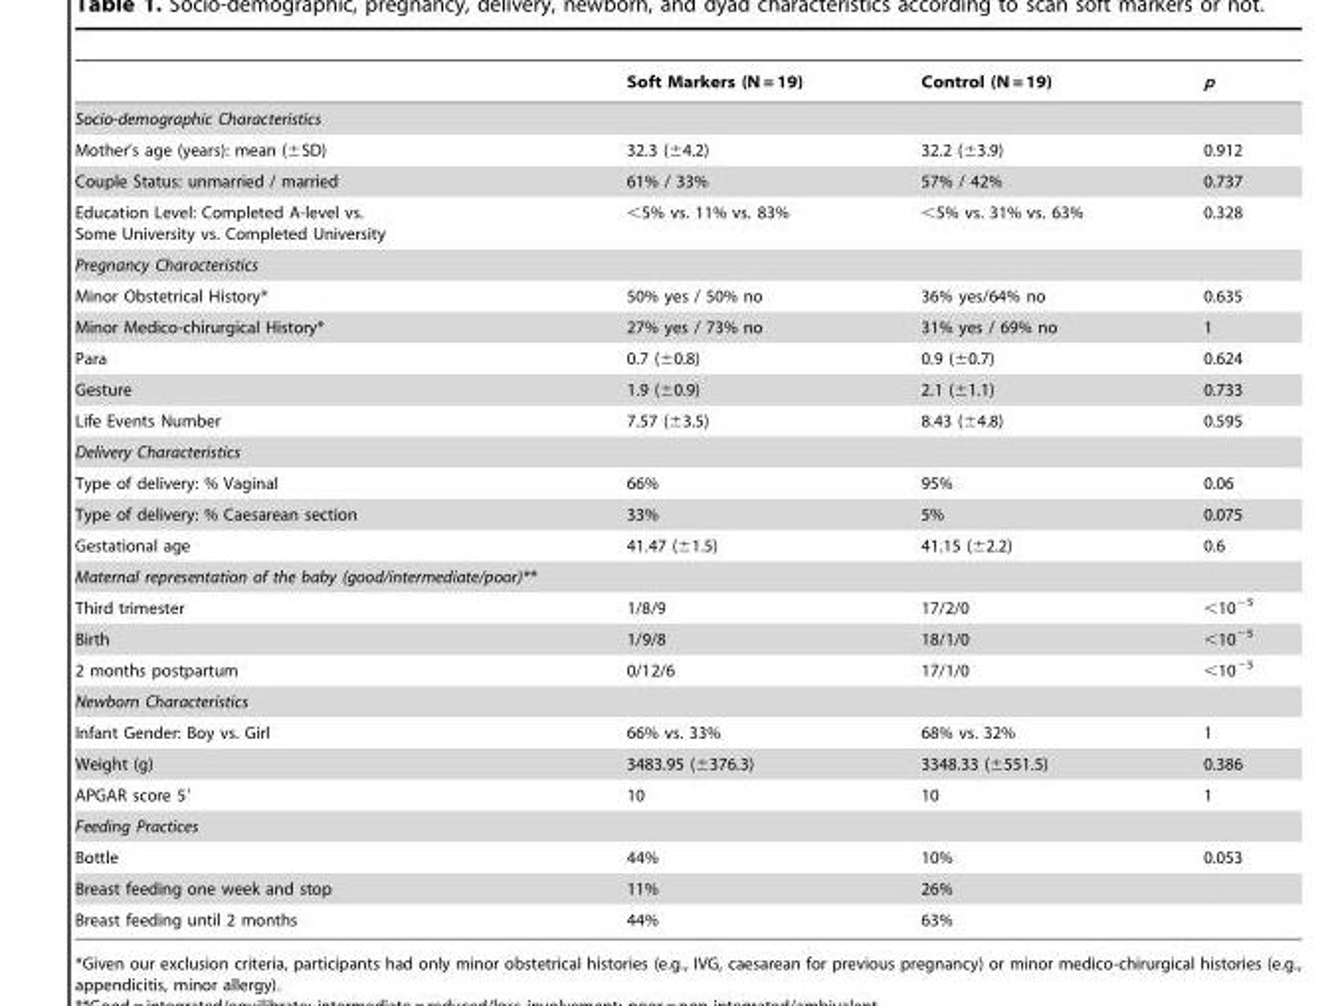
<table><thead><tr><td></td><td>Soft Markers (N = 19)</td><td>Control (N = 19)</td><td>p</td></tr></thead><tbody><tr><td colspan="4">Socio-demographic Characteristics</td></tr><tr><td>Mother’s age (years): mean (±SD)</td><td>32.3 (±4.2)</td><td>32.2 (±3.9)</td><td>0.912</td></tr><tr><td>Couple Status: unmarried / married</td><td>61% / 33%</td><td>57% / 42%</td><td>0.737</td></tr><tr><td>Education Level: Completed A-level vs. Some University vs. Completed University</td><td>&lt;5% vs. 11% vs. 83%</td><td>&lt;5% vs. 31% vs. 63%</td><td>0.328</td></tr><tr><td colspan="4">Pregnancy Characteristics</td></tr><tr><td>Minor Obstetrical History*</td><td>50% yes / 50% no</td><td>36% yes/64% no</td><td>0.635</td></tr><tr><td>Minor Medico-chirurgical History*</td><td>27% yes / 73% no</td><td>31% yes / 69% no</td><td>1</td></tr><tr><td>Para</td><td>0.7 (±0.8)</td><td>0.9 (±0.7)</td><td>0.624</td></tr><tr><td>Gesture</td><td>1.9 (±0.9)</td><td>2.1 (±1.1)</td><td>0.733</td></tr><tr><td>Life Events Number</td><td>7.57 (±3.5)</td><td>8.43 (±4.8)</td><td>0.595</td></tr><tr><td colspan="4">Delivery Characteristics</td></tr><tr><td>Type of delivery: % Vaginal</td><td>66%</td><td>95%</td><td>0.06</td></tr><tr><td>Type of delivery: % Caesarean section</td><td>33%</td><td>5%</td><td>0.075</td></tr><tr><td>Gestational age</td><td>41.47 (±1.5)</td><td>41.15 (±2.2)</td><td>0.6</td></tr><tr><td colspan="4">Maternal representation of the baby (good/intermediate/poor)**</td></tr><tr><td>Third trimester</td><td>1/8/9</td><td>17/2/0</td><td>&lt;10<sup>−5</sup></td></tr><tr><td>Birth</td><td>1/9/8</td><td>18/1/0</td><td>&lt;10<sup>−5</sup></td></tr><tr><td>2 months postpartum</td><td>0/12/6</td><td>17/1/0</td><td>&lt;10<sup>−5</sup></td></tr><tr><td colspan="4">Newborn Characteristics</td></tr><tr><td>Infant Gender: Boy vs. Girl</td><td>66% vs. 33%</td><td>68% vs. 32%</td><td>1</td></tr><tr><td>Weight (g)</td><td>3483.95 (±376.3)</td><td>3348.33 (±551.5)</td><td>0.386</td></tr><tr><td>APGAR score 5′</td><td>10</td><td>10</td><td>1</td></tr><tr><td colspan="4">Feeding Practices</td></tr><tr><td>Bottle</td><td>44%</td><td>10%</td><td>0.053</td></tr><tr><td>Breast feeding one week and stop</td><td>11%</td><td>26%</td><td></td></tr><tr><td>Breast feeding until 2 months</td><td>44%</td><td>63%</td><td></td></tr></tbody></table>